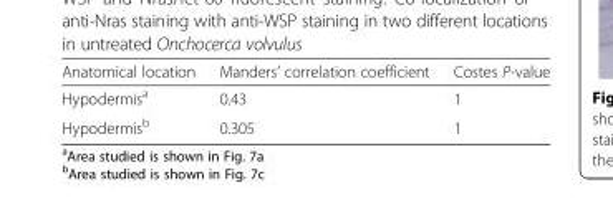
<table><thead><tr><td>Anatomical location</td><td>Manders’ correlation coefficient</td><td>Costes P-value</td></tr></thead><tbody><tr><td>Hypodermis<sup>a</sup></td><td>0.43</td><td>1</td></tr><tr><td>Hypodermis<sup>b</sup></td><td>0.305</td><td>1</td></tr></tbody></table>